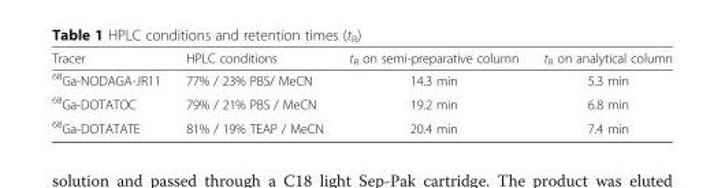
<table><thead><tr><td>Tracer</td><td>HPLC conditions</td><td>t<sub>R</sub> on semi-preparative column</td><td>t<sub>R</sub> on analytical column</td></tr></thead><tbody><tr><td><sup>68</sup>Ga-NODAGA-JR11</td><td>77% / 23% PBS/ MeCN</td><td>14.3 min</td><td>5.3 min</td></tr><tr><td><sup>68</sup>Ga-DOTATOC</td><td>79% / 21% PBS / MeCN</td><td>19.2 min</td><td>6.8 min</td></tr><tr><td><sup>68</sup>Ga-DOTATATE</td><td>81% / 19% TEAP / MeCN</td><td>20.4 min</td><td>7.4 min</td></tr></tbody></table>